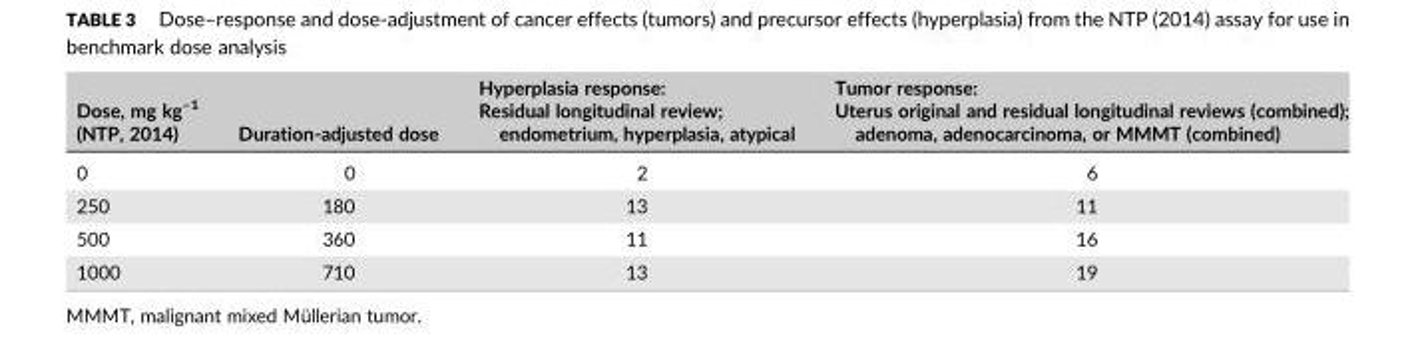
<table><thead><tr><td>Dose, mg kg<sup>–1</sup> (NTP, 2014)</td><td>Duration‐adjusted dose</td><td>Hyperplasia response: Residual longitudinal review; endometrium, hyperplasia, atypical</td><td>Tumor response: Uterus original and residual longitudinal reviews (combined); adenoma, adenocarcinoma, or MMMT (combined)</td></tr></thead><tbody><tr><td>0</td><td>0</td><td>2</td><td>6</td></tr><tr><td>250</td><td>180</td><td>13</td><td>11</td></tr><tr><td>500</td><td>360</td><td>11</td><td>16</td></tr><tr><td>1000</td><td>710</td><td>13</td><td>19</td></tr></tbody></table>